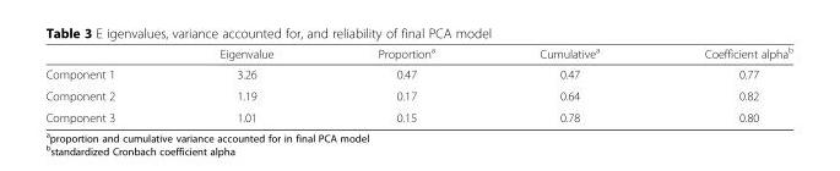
<table><thead><tr><td></td><td>Eigenvalue</td><td>Proportion<sup>a</sup></td><td>Cumulative<sup>a</sup></td><td>Coefficient alpha<sup>b</sup></td></tr></thead><tbody><tr><td>Component 1</td><td>3.26</td><td>0.47</td><td>0.47</td><td>0.77</td></tr><tr><td>Component 2</td><td>1.19</td><td>0.17</td><td>0.64</td><td>0.82</td></tr><tr><td>Component 3</td><td>1.01</td><td>0.15</td><td>0.78</td><td>0.80</td></tr></tbody></table>